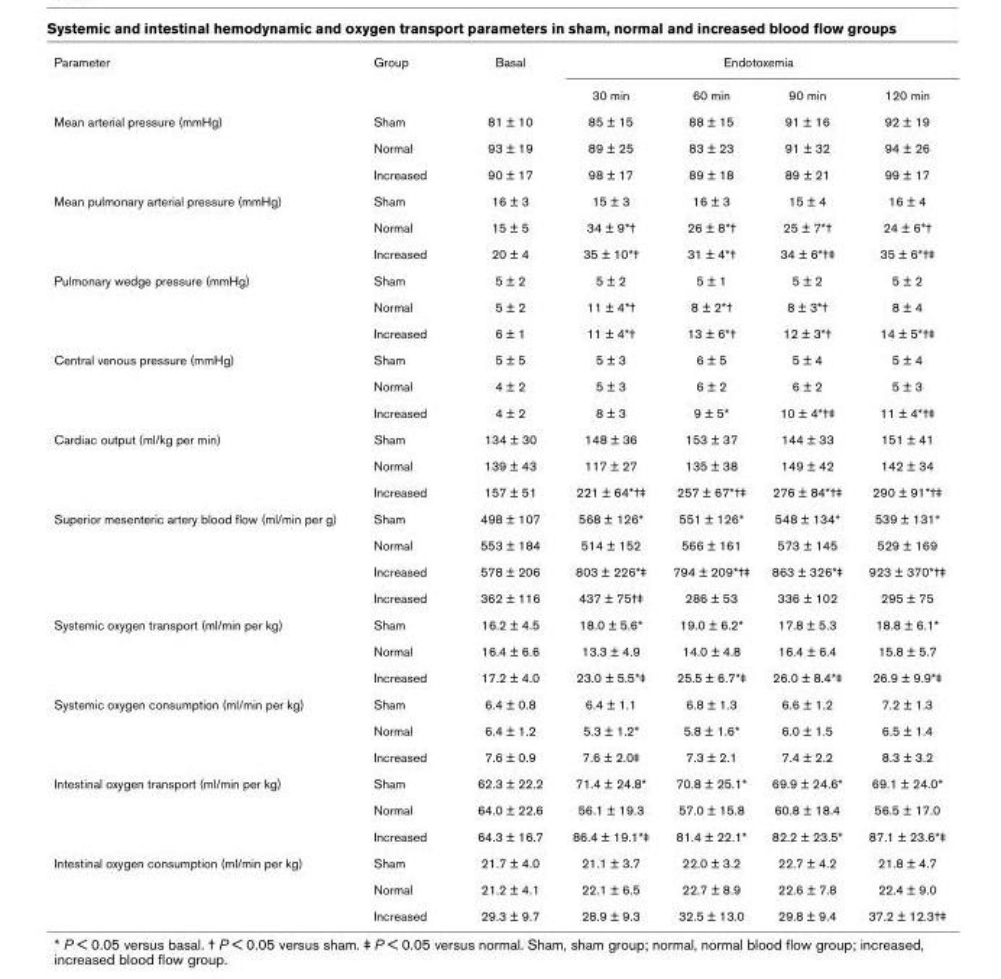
<table><tbody><tr><td rowspan="2">Parameter</td><td>Group</td><td>Basal</td><td colspan="4">Endotoxemia</td></tr><tr><td></td><td></td><td>30 min</td><td>60 min</td><td>90 min</td><td>120 min</td></tr><tr><td rowspan="3">Mean arterial pressure (mmHg)</td><td>Sham</td><td>81 ± 10</td><td>85 ± 15</td><td>88 ± 15</td><td>91 ± 16</td><td>92 ± 19</td></tr><tr><td>Normal</td><td>93 ± 19</td><td>89 ± 25</td><td>83 ± 23</td><td>91 ± 32</td><td>94 ± 26</td></tr><tr><td>Increased</td><td>90 ± 17</td><td>98 ± 17</td><td>89 ± 18</td><td>89 ± 21</td><td>99 ± 17</td></tr><tr><td rowspan="3">Mean pulmonary arterial pressure (mmHg)</td><td>Sham</td><td>16 ± 3</td><td>15 ± 3</td><td>16 ± 3</td><td>15 ± 4</td><td>16 ± 4</td></tr><tr><td>Normal</td><td>15 ± 5</td><td>34 ± 9*†</td><td>26 ± 8*†</td><td>25 ± 7*†</td><td>24 ± 6*†</td></tr><tr><td>Increased</td><td>20 ± 4</td><td>35 ± 10*†</td><td>31 ± 4*†</td><td>34 ± 6*†‡</td><td>35 ± 6*†‡</td></tr><tr><td rowspan="3">Pulmonary wedge pressure (mmHg)</td><td>Sham</td><td>5 ± 2</td><td>5 ± 2</td><td>5 ± 1</td><td>5 ± 2</td><td>5 ± 2</td></tr><tr><td>Normal</td><td>5 ± 2</td><td>11 ± 4*†</td><td>8 ± 2*†</td><td>8 ± 3*†</td><td>8 ± 4</td></tr><tr><td>Increased</td><td>6 ± 1</td><td>11 ± 4*†</td><td>13 ± 6*†</td><td>12 ± 3*†</td><td>14 ± 5*†‡</td></tr><tr><td rowspan="3">Central venous pressure (mmHg)</td><td>Sham</td><td>5 ± 5</td><td>5 ± 3</td><td>6 ± 5</td><td>5 ± 4</td><td>5 ± 4</td></tr><tr><td>Normal</td><td>4 ± 2</td><td>5 ± 3</td><td>6 ± 2</td><td>6 ± 2</td><td>5 ± 3</td></tr><tr><td>Increased</td><td>4 ± 2</td><td>8 ± 3</td><td>9 ± 5*</td><td>10 ± 4*†‡</td><td>11 ± 4*†‡</td></tr><tr><td rowspan="3">Cardiac output (ml/kg per min)</td><td>Sham</td><td>134 ± 30</td><td>148 ± 36</td><td>153 ± 37</td><td>144 ± 33</td><td>151 ± 41</td></tr><tr><td>Normal</td><td>139 ± 43</td><td>117 ± 27</td><td>135 ± 38</td><td>149 ± 42</td><td>142 ± 34</td></tr><tr><td>Increased</td><td>157 ± 51</td><td>221 ± 64*†‡</td><td>257 ± 67*†‡</td><td>276 ± 84*†‡</td><td>290 ± 91*†‡</td></tr><tr><td rowspan="4">Superior mesenteric artery blood flow (ml/min per g)</td><td>Sham</td><td>498 ± 107</td><td>568 ± 126*</td><td>551 ± 126*</td><td>548 ± 134*</td><td>539 ± 131*</td></tr><tr><td>Normal</td><td>553 ± 184</td><td>514 ± 152</td><td>566 ± 161</td><td>573 ± 145</td><td>529 ± 169</td></tr><tr><td>Increased</td><td>578 ± 206</td><td>803 ± 226*‡</td><td>794 ± 209*†‡</td><td>863 ± 326*‡</td><td>923 ± 370*†‡</td></tr><tr><td>Increased</td><td>362 ± 116</td><td>437 ± 75†‡</td><td>286 ± 53</td><td>336 ± 102</td><td>295 ± 75</td></tr><tr><td rowspan="3">Systemic oxygen transport (ml/min per kg)</td><td>Sham</td><td>16.2 ± 4.5</td><td>18.0 ± 5.6*</td><td>19.0 ± 6.2*</td><td>17.8 ± 5.3</td><td>18.8 ± 6.1*</td></tr><tr><td>Normal</td><td>16.4 ± 6.6</td><td>13.3 ± 4.9</td><td>14.0 ± 4.8</td><td>16.4 ± 6.4</td><td>15.8 ± 5.7</td></tr><tr><td>Increased</td><td>17.2 ± 4.0</td><td>23.0 ± 5.5*‡</td><td>25.5 ± 6.7*‡</td><td>26.0 ± 8.4*‡</td><td>26.9 ± 9.9*‡</td></tr><tr><td rowspan="3">Systemic oxygen consumption (ml/min per kg)</td><td>Sham</td><td>6.4 ± 0.8</td><td>6.4 ± 1.1</td><td>6.8 ± 1.3</td><td>6.6 ± 1.2</td><td>7.2 ± 1.3</td></tr><tr><td>Normal</td><td>6.4 ± 1.2</td><td>5.3 ± 1.2*</td><td>5.8 ± 1.6*</td><td>6.0 ± 1.5</td><td>6.5 ± 1.4</td></tr><tr><td>Increased</td><td>7.6 ± 0.9</td><td>7.6 ± 2.0‡</td><td>7.3 ± 2.1</td><td>7.4 ± 2.2</td><td>8.3 ± 3.2</td></tr><tr><td rowspan="3">Intestinal oxygen transport (ml/min per kg)</td><td>Sham</td><td>62.3 ± 22.2</td><td>71.4 ± 24.8*</td><td>70.8 ± 25.1*</td><td>69.9 ± 24.6*</td><td>69.1 ± 24.0*</td></tr><tr><td>Normal</td><td>64.0 ± 22.6</td><td>56.1 ± 19.3</td><td>57.0 ± 15.8</td><td>60.8 ± 18.4</td><td>56.5 ± 17.0</td></tr><tr><td>Increased</td><td>64.3 ± 16.7</td><td>86.4 ± 19.1*‡</td><td>81.4 ± 22.1*</td><td>82.2 ± 23.5*</td><td>87.1 ± 23.6*‡</td></tr><tr><td rowspan="3">Intestinal oxygen consumption (ml/min per kg)</td><td>Sham</td><td>21.7 ± 4.0</td><td>21.1 ± 3.7</td><td>22.0 ± 3.2</td><td>22.7 ± 4.2</td><td>21.8 ± 4.7</td></tr><tr><td>Normal</td><td>21.2 ± 4.1</td><td>22.1 ± 6.5</td><td>22.7 ± 8.9</td><td>22.6 ± 7.8</td><td>22.4 ± 9.0</td></tr><tr><td>Increased</td><td>29.3 ± 9.7</td><td>28.9 ± 9.3</td><td>32.5 ± 13.0</td><td>29.8 ± 9.4</td><td>37.2 ± 12.3†‡</td></tr></tbody></table>